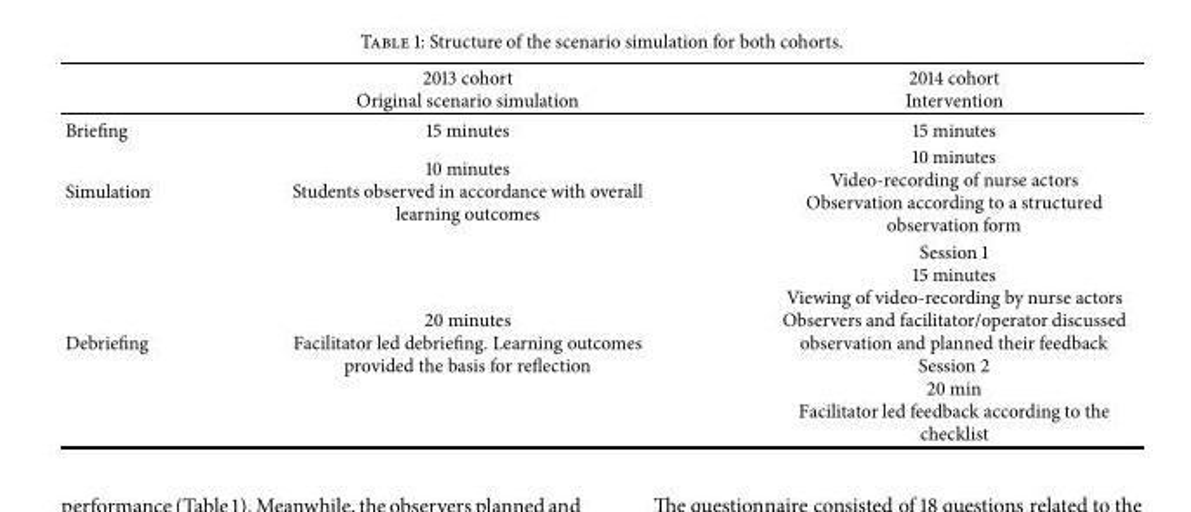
<table><thead><tr><td></td><td>2013 cohort Original scenario simulation</td><td>2014 cohort Intervention</td></tr></thead><tbody><tr><td>Briefing</td><td>15 minutes</td><td>15 minutes</td></tr><tr><td>Simulation</td><td>10 minutes Students observed in accordance with overall learning outcomes</td><td>10 minutes Video-recording of nurse actors Observation according to a structured observation form</td></tr><tr><td>Debriefing</td><td>20 minutes Facilitator led debriefing. Learning outcomes provided the basis for reflection</td><td>Session 1 15 minutes Viewing of video-recording by nurse actors Observers and facilitator/operator discussed observation and planned their feedback Session 2 20 min Facilitator led feedback according to the checklist</td></tr></tbody></table>